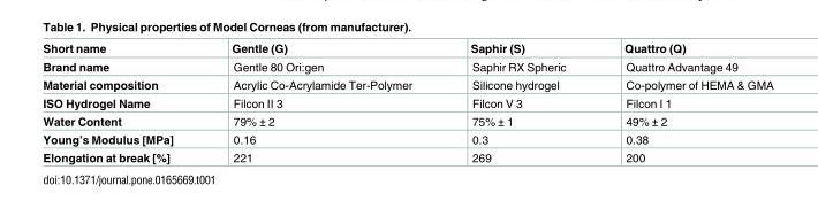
<table><thead><tr><td>Short name</td><td>Gentle (G)</td><td>Saphir (S)</td><td>Quattro (Q)</td></tr></thead><tbody><tr><td>Brand name</td><td>Gentle 80 Ori:gen</td><td>Saphir RX Spheric</td><td>Quattro Advantage 49</td></tr><tr><td>Material composition</td><td>Acrylic Co-Acrylamide Ter-Polymer</td><td>Silicone hydrogel</td><td>Co-polymer of HEMA &amp; GMA</td></tr><tr><td>ISO Hydrogel Name</td><td>Filcon II 3</td><td>Filcon V 3</td><td>Filcon I 1</td></tr><tr><td>Water Content</td><td>79% ± 2</td><td>75% ± 1</td><td>49% ± 2</td></tr><tr><td>Young’s Modulus [MPa]</td><td>0.16</td><td>0.3</td><td>0.38</td></tr><tr><td>Elongation at break [%]</td><td>221</td><td>269</td><td>200</td></tr></tbody></table>